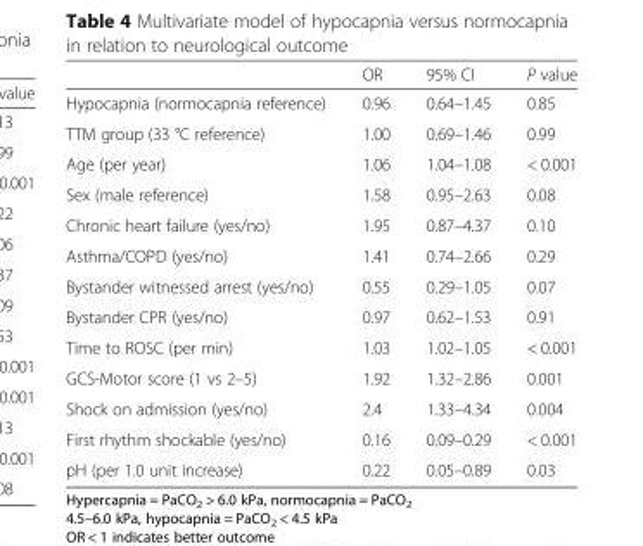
<table><thead><tr><td></td><td>OR</td><td>95% CI</td><td>P value</td></tr></thead><tbody><tr><td>Hypocapnia (normocapnia reference)</td><td>0.96</td><td>0.64–1.45</td><td>0.85</td></tr><tr><td>TTM group (33 °C reference)</td><td>1.00</td><td>0.69–1.46</td><td>0.99</td></tr><tr><td>Age (per year)</td><td>1.06</td><td>1.04–1.08</td><td>&lt; 0.001</td></tr><tr><td>Sex (male reference)</td><td>1.58</td><td>0.95–2.63</td><td>0.08</td></tr><tr><td>Chronic heart failure (yes/no)</td><td>1.95</td><td>0.87–4.37</td><td>0.10</td></tr><tr><td>Asthma/COPD (yes/no)</td><td>1.41</td><td>0.74–2.66</td><td>0.29</td></tr><tr><td>Bystander witnessed arrest (yes/no)</td><td>0.55</td><td>0.29–1.05</td><td>0.07</td></tr><tr><td>Bystander CPR (yes/no)</td><td>0.97</td><td>0.62–1.53</td><td>0.91</td></tr><tr><td>Time to ROSC (per min)</td><td>1.03</td><td>1.02–1.05</td><td>&lt; 0.001</td></tr><tr><td>GCS-Motor score (1 vs 2–5)</td><td>1.92</td><td>1.32–2.86</td><td>0.001</td></tr><tr><td>Shock on admission (yes/no)</td><td>2.4</td><td>1.33–4.34</td><td>0.004</td></tr><tr><td>First rhythm shockable (yes/no)</td><td>0.16</td><td>0.09–0.29</td><td>&lt; 0.001</td></tr><tr><td>pH (per 1.0 unit increase)</td><td>0.22</td><td>0.05–0.89</td><td>0.03</td></tr></tbody></table>